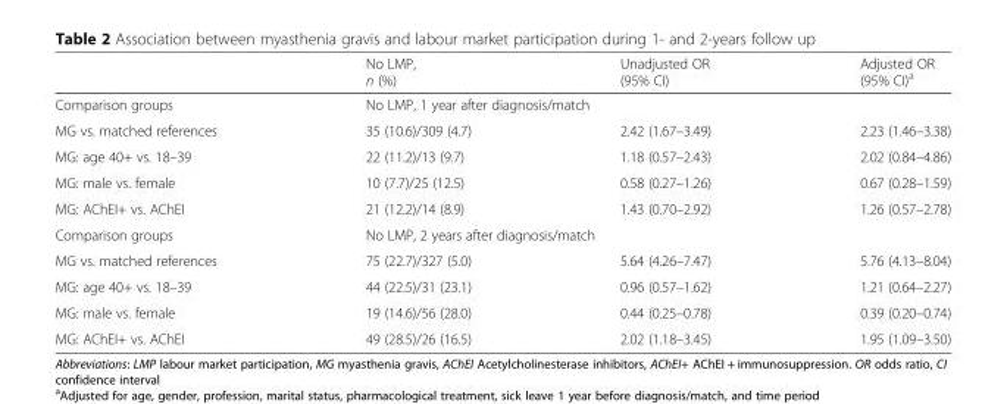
<table><thead><tr><td></td><td>No LMP, n (%)</td><td>Unadjusted OR (95% CI)</td><td>Adjusted OR (95% CI)<sup>a</sup></td></tr></thead><tbody><tr><td>Comparison groups</td><td colspan="3">No LMP, 1 year after diagnosis/match</td></tr><tr><td>MG vs. matched references</td><td>35 (10.6)/309 (4.7)</td><td>2.42 (1.67–3.49)</td><td>2.23 (1.46–3.38)</td></tr><tr><td>MG: age 40+ vs. 18–39</td><td>22 (11.2)/13 (9.7)</td><td>1.18 (0.57–2.43)</td><td>2.02 (0.84–4.86)</td></tr><tr><td>MG: male vs. female</td><td>10 (7.7)/25 (12.5)</td><td>0.58 (0.27–1.26)</td><td>0.67 (0.28–1.59)</td></tr><tr><td>MG: AChEI+ vs. AChEI</td><td>21 (12.2)/14 (8.9)</td><td>1.43 (0.70–2.92)</td><td>1.26 (0.57–2.78)</td></tr><tr><td>Comparison groups</td><td colspan="3">No LMP, 2 years after diagnosis/match</td></tr><tr><td>MG vs. matched references</td><td>75 (22.7)/327 (5.0)</td><td>5.64 (4.26–7.47)</td><td>5.76 (4.13–8.04)</td></tr><tr><td>MG: age 40+ vs. 18–39</td><td>44 (22.5)/31 (23.1)</td><td>0.96 (0.57–1.62)</td><td>1.21 (0.64–2.27)</td></tr><tr><td>MG: male vs. female</td><td>19 (14.6)/56 (28.0)</td><td>0.44 (0.25–0.78)</td><td>0.39 (0.20–0.74)</td></tr><tr><td>MG: AChEI+ vs. AChEI</td><td>49 (28.5)/26 (16.5)</td><td>2.02 (1.18–3.45)</td><td>1.95 (1.09–3.50)</td></tr></tbody></table>